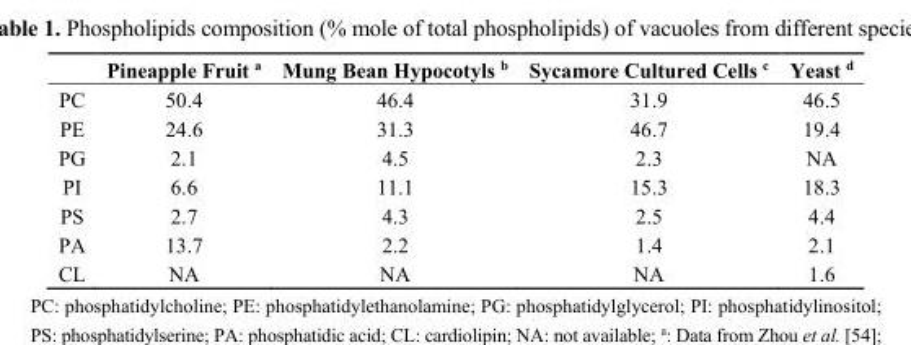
<table><thead><tr><td></td><td>Pineapple Fruit <sup>a</sup></td><td>Mung Bean Hypocotyls <sup>b</sup></td><td>Sycamore Cultured Cells <sup>c</sup></td><td>Yeast <sup>d</sup></td></tr></thead><tbody><tr><td>PC</td><td>50.4</td><td>46.4</td><td>31.9</td><td>46.5</td></tr><tr><td>PE</td><td>24.6</td><td>31.3</td><td>46.7</td><td>19.4</td></tr><tr><td>PG</td><td>2.1</td><td>4.5</td><td>2.3</td><td>NA</td></tr><tr><td>PI</td><td>6.6</td><td>11.1</td><td>15.3</td><td>18.3</td></tr><tr><td>PS</td><td>2.7</td><td>4.3</td><td>2.5</td><td>4.4</td></tr><tr><td>PA</td><td>13.7</td><td>2.2</td><td>1.4</td><td>2.1</td></tr><tr><td>CL</td><td>NA</td><td>NA</td><td>NA</td><td>1.6</td></tr></tbody></table>